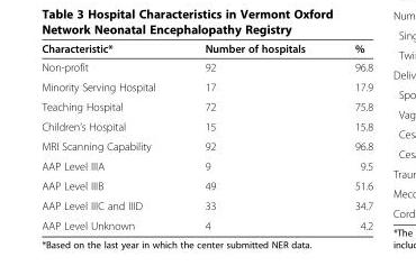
<table><thead><tr><td>Characteristic*</td><td>Number of hospitals</td><td>%</td></tr></thead><tbody><tr><td>Non-profit</td><td>92</td><td>96.8</td></tr><tr><td>Minority Serving Hospital</td><td>17</td><td>17.9</td></tr><tr><td>Teaching Hospital</td><td>72</td><td>75.8</td></tr><tr><td>Children’s Hospital</td><td>15</td><td>15.8</td></tr><tr><td>MRI Scanning Capability</td><td>92</td><td>96.8</td></tr><tr><td>AAP Level IIIA</td><td>9</td><td>9.5</td></tr><tr><td>AAP Level IIIB</td><td>49</td><td>51.6</td></tr><tr><td>AAP Level IIIC and IIID</td><td>33</td><td>34.7</td></tr><tr><td>AAP Level Unknown</td><td>4</td><td>4.2</td></tr></tbody></table>